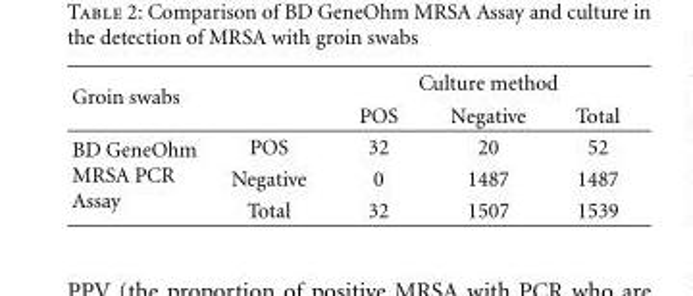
<table><thead><tr><td rowspan="2">Groin swabs</td><td rowspan="2"></td><td colspan="3">Culture method</td></tr><tr><td>POS</td><td>Negative</td><td>Total</td></tr></thead><tbody><tr><td rowspan="3">BD GeneOhm MRSA PCR Assay</td><td>POS</td><td>32</td><td>20</td><td>52</td></tr><tr><td>Negative</td><td>0</td><td>1487</td><td>1487</td></tr><tr><td>Total</td><td>32</td><td>1507</td><td>1539</td></tr></tbody></table>